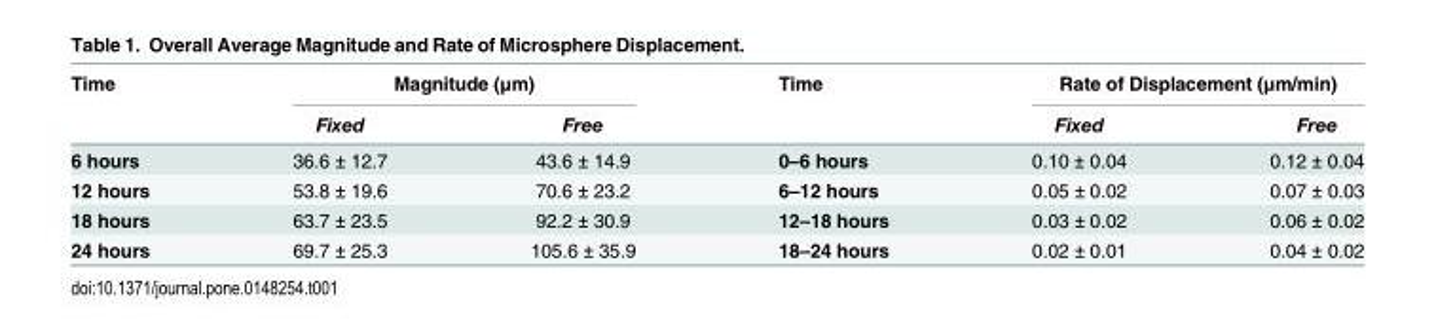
<table><thead><tr><td rowspan="2">Time</td><td colspan="2">Magnitude (μm)</td><td rowspan="2">Time</td><td colspan="2">Rate of Displacement (μm/min)</td></tr><tr><td>Fixed</td><td>Free</td><td>Fixed</td><td>Free</td></tr></thead><tbody><tr><td>6 hours</td><td>36.6 ± 12.7</td><td>43.6 ± 14.9</td><td>0–6 hours</td><td>0.10 ± 0.04</td><td>0.12 ± 0.04</td></tr><tr><td>12 hours</td><td>53.8 ± 19.6</td><td>70.6 ± 23.2</td><td>6–12 hours</td><td>0.05 ± 0.02</td><td>0.07 ± 0.03</td></tr><tr><td>18 hours</td><td>63.7 ± 23.5</td><td>92.2 ± 30.9</td><td>12–18 hours</td><td>0.03 ± 0.02</td><td>0.06 ± 0.02</td></tr><tr><td>24 hours</td><td>69.7 ± 25.3</td><td>105.6 ± 35.9</td><td>18–24 hours</td><td>0.02 ± 0.01</td><td>0.04 ± 0.02</td></tr></tbody></table>